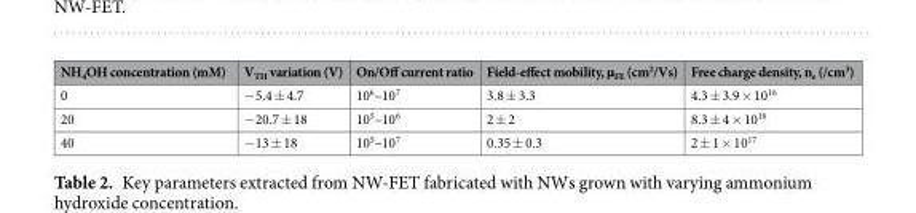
<table><thead><tr><td>NH<sub>4</sub>OH concentration (mM)</td><td>V<sub>TH</sub> variation (V)</td><td>On/Off current ratio</td><td>Field-effect mobility, µ<sub>FE</sub> (cm<sup>2</sup>/Vs)</td><td>Free charge density, n<sub>e</sub> (/cm<sup>3</sup>)</td></tr></thead><tbody><tr><td>0</td><td>−5.4 ± 4.7</td><td>10<sup>6</sup>–10<sup>7</sup></td><td>3.8 ± 3.3</td><td>4.3 ± 3.9 × 10<sup>16</sup></td></tr><tr><td>20</td><td>−20.7 ± 18</td><td>10<sup>5</sup>–10<sup>6</sup></td><td>2 ± 2</td><td>8.3 ± 4 × 10<sup>16</sup></td></tr><tr><td>40</td><td>−13 ± 18</td><td>10<sup>5</sup>–10<sup>7</sup></td><td>0.35 ± 0.3</td><td>2 ± 1 × 10<sup>17</sup></td></tr></tbody></table>